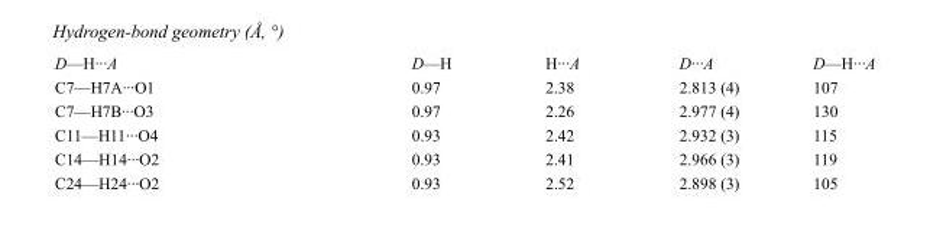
<table><tbody><tr><td>D—H···A</td><td>D—H</td><td>H···A</td><td>D···A</td><td>D—H···A</td></tr><tr><td>C7—H7A···O1</td><td>0.97</td><td>2.38</td><td>2.813 (4)</td><td>107</td></tr><tr><td>C7—H7B···O3</td><td>0.97</td><td>2.26</td><td>2.977 (4)</td><td>130</td></tr><tr><td>C11—H11···O4</td><td>0.93</td><td>2.42</td><td>2.932 (3)</td><td>115</td></tr><tr><td>C14—H14···O2</td><td>0.93</td><td>2.41</td><td>2.966 (3)</td><td>119</td></tr><tr><td>C24—H24···O2</td><td>0.93</td><td>2.52</td><td>2.898 (3)</td><td>105</td></tr></tbody></table>